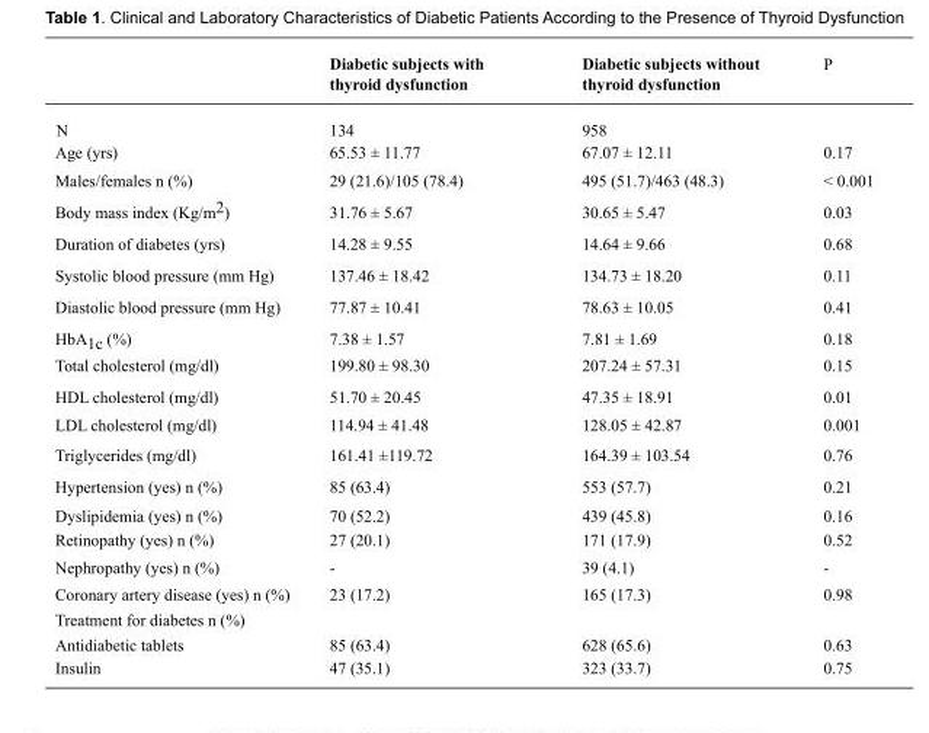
<table><thead><tr><td></td><td>Diabetic subjects with thyroid dysfunction</td><td>Diabetic subjects without thyroid dysfunction</td><td>P</td></tr></thead><tbody><tr><td>N</td><td>134</td><td>958</td><td></td></tr><tr><td>Age (yrs)</td><td>65.53 ± 11.77</td><td>67.07 ± 12.11</td><td>0.17</td></tr><tr><td>Males/females n (%)</td><td>29 (21.6)/105 (78.4)</td><td>495 (51.7)/463 (48.3)</td><td>&lt; 0.001</td></tr><tr><td>Body mass index (Kg/m<sup>2</sup>)</td><td>31.76 ± 5.67</td><td>30.65 ± 5.47</td><td>0.03</td></tr><tr><td>Duration of diabetes (yrs)</td><td>14.28 ± 9.55</td><td>14.64 ± 9.66</td><td>0.68</td></tr><tr><td>Systolic blood pressure (mm Hg)</td><td>137.46 ± 18.42</td><td>134.73 ± 18.20</td><td>0.11</td></tr><tr><td>Diastolic blood pressure (mm Hg)</td><td>77.87 ± 10.41</td><td>78.63 ± 10.05</td><td>0.41</td></tr><tr><td>HbA<sub>1c</sub> (%)</td><td>7.38 ± 1.57</td><td>7.81 ± 1.69</td><td>0.18</td></tr><tr><td>Total cholesterol (mg/dl)</td><td>199.80 ± 98.30</td><td>207.24 ± 57.31</td><td>0.15</td></tr><tr><td>HDL cholesterol (mg/dl)</td><td>51.70 ± 20.45</td><td>47.35 ± 18.91</td><td>0.01</td></tr><tr><td>LDL cholesterol (mg/dl)</td><td>114.94 ± 41.48</td><td>128.05 ± 42.87</td><td>0.001</td></tr><tr><td>Triglycerides (mg/dl)</td><td>161.41 ±119.72</td><td>164.39 ± 103.54</td><td>0.76</td></tr><tr><td>Hypertension (yes) n (%)</td><td>85 (63.4)</td><td>553 (57.7)</td><td>0.21</td></tr><tr><td>Dyslipidemia (yes) n (%)</td><td>70 (52.2)</td><td>439 (45.8)</td><td>0.16</td></tr><tr><td>Retinopathy (yes) n (%)</td><td>27 (20.1)</td><td>171 (17.9)</td><td>0.52</td></tr><tr><td>Nephropathy (yes) n (%)</td><td>-</td><td>39 (4.1)</td><td>-</td></tr><tr><td>Coronary artery disease (yes) n (%)</td><td>23 (17.2)</td><td>165 (17.3)</td><td>0.98</td></tr><tr><td colspan="4">Treatment for diabetes n (%)</td></tr><tr><td>Antidiabetic tablets</td><td>85 (63.4)</td><td>628 (65.6)</td><td>0.63</td></tr><tr><td>Insulin</td><td>47 (35.1)</td><td>323 (33.7)</td><td>0.75</td></tr></tbody></table>